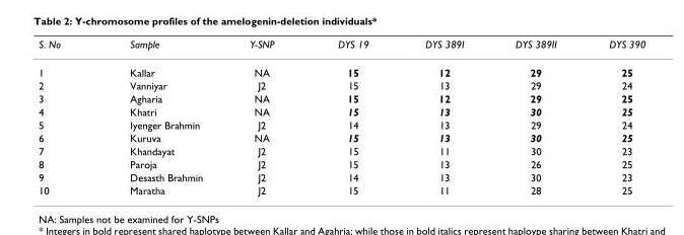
<table><thead><tr><td>S. No</td><td>Sample</td><td>Y-SNP</td><td>DYS 19</td><td>DYS 389I</td><td>DYS 389II</td><td>DYS 390</td></tr></thead><tbody><tr><td>1</td><td>Kallar</td><td>NA</td><td>15</td><td>12</td><td>29</td><td>25</td></tr><tr><td>2</td><td>Vanniyar</td><td>J2</td><td>15</td><td>13</td><td>29</td><td>24</td></tr><tr><td>3</td><td>Agharia</td><td>NA</td><td>15</td><td>12</td><td>29</td><td>25</td></tr><tr><td>4</td><td>Khatri</td><td>NA</td><td>15</td><td>13</td><td>30</td><td>25</td></tr><tr><td>5</td><td>Iyenger Brahmin</td><td>J2</td><td>14</td><td>13</td><td>29</td><td>24</td></tr><tr><td>6</td><td>Kuruva</td><td>NA</td><td>15</td><td>13</td><td>30</td><td>25</td></tr><tr><td>7</td><td>Khandayat</td><td>J2</td><td>15</td><td>11</td><td>30</td><td>23</td></tr><tr><td>8</td><td>Paroja</td><td>J2</td><td>15</td><td>13</td><td>26</td><td>25</td></tr><tr><td>9</td><td>Desasth Brahmin</td><td>J2</td><td>14</td><td>13</td><td>30</td><td>23</td></tr><tr><td>10</td><td>Maratha</td><td>J2</td><td>15</td><td>11</td><td>28</td><td>25</td></tr></tbody></table>